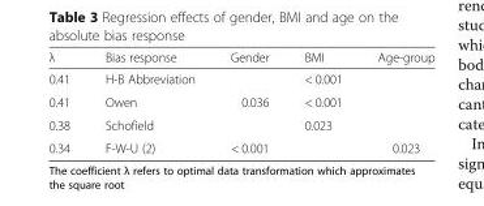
<table><thead><tr><td>λ</td><td>Bias response</td><td>Gender</td><td>BMI</td><td>Age-group</td></tr></thead><tbody><tr><td>0.41</td><td>H-B Αbbreviation</td><td></td><td>&lt; 0.001</td><td></td></tr><tr><td>0.41</td><td>Owen</td><td>0.036</td><td>&lt; 0.001</td><td></td></tr><tr><td>0.38</td><td>Schofield</td><td></td><td>0.023</td><td></td></tr><tr><td>0.34</td><td>F-W-U (2)</td><td>&lt; 0.001</td><td></td><td>0.023</td></tr></tbody></table>